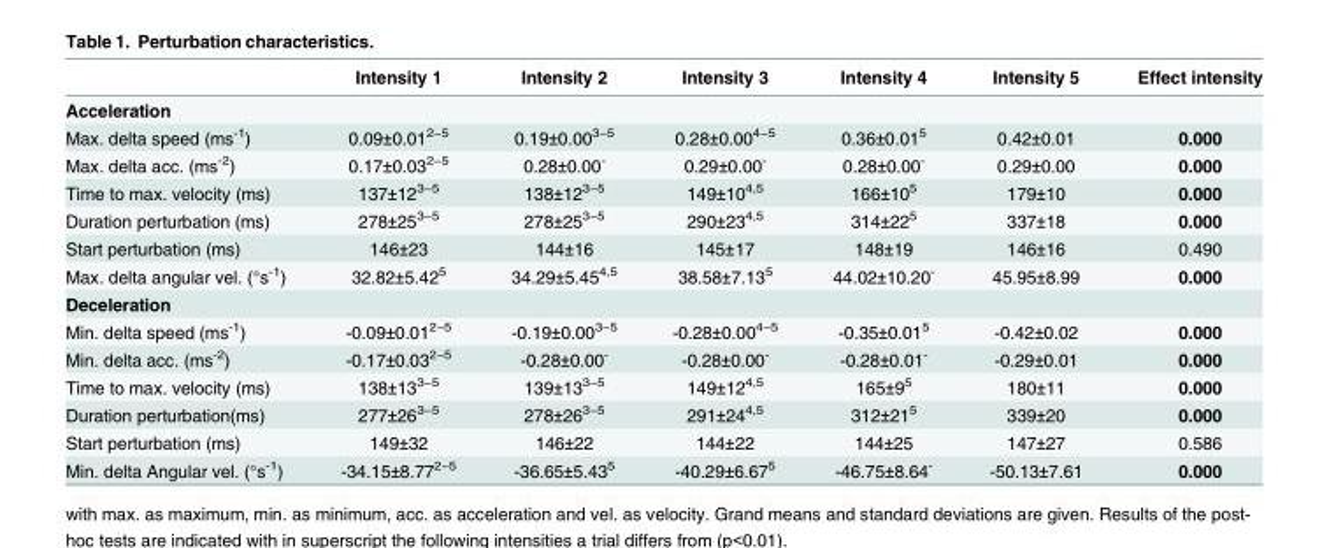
<table><thead><tr><td></td><td>Intensity 1</td><td>Intensity 2</td><td>Intensity 3</td><td>Intensity 4</td><td>Intensity 5</td><td>Effect intensity</td></tr></thead><tbody><tr><td colspan="7">Acceleration</td></tr><tr><td>Max. delta speed (ms<sup>-1</sup>)</td><td>0.09±0.01<sup>2−5</sup></td><td>0.19±0.00<sup>3−5</sup></td><td>0.28±0.00<sup>4−5</sup></td><td>0.36±0.01<sup>5</sup></td><td>0.42±0.01</td><td>0.000</td></tr><tr><td>Max. delta acc. (ms<sup>-2</sup>)</td><td>0.17±0.03<sup>2−5</sup></td><td>0.28±0.00<sup>-</sup></td><td>0.29±0.00<sup>-</sup></td><td>0.28±0.00<sup>-</sup></td><td>0.29±0.00</td><td>0.000</td></tr><tr><td>Time to max. velocity (ms)</td><td>137±12<sup>3−5</sup></td><td>138±12<sup>3−5</sup></td><td>149±10<sup>4,5</sup></td><td>166±10<sup>5</sup></td><td>179±10</td><td>0.000</td></tr><tr><td>Duration perturbation (ms)</td><td>278±25<sup>3−5</sup></td><td>278±25<sup>3−5</sup></td><td>290±23<sup>4,5</sup></td><td>314±22<sup>5</sup></td><td>337±18</td><td>0.000</td></tr><tr><td>Start perturbation (ms)</td><td>146±23</td><td>144±16</td><td>145±17</td><td>148±19</td><td>146±16</td><td>0.490</td></tr><tr><td>Max. delta angular vel. (°s<sup>-1</sup>)</td><td>32.82±5.42<sup>5</sup></td><td>34.29±5.45<sup>4,5</sup></td><td>38.58±7.13<sup>5</sup></td><td>44.02±10.20<sup>-</sup></td><td>45.95±8.99</td><td>0.000</td></tr><tr><td colspan="7">Deceleration</td></tr><tr><td>Min. delta speed (ms<sup>-1</sup>)</td><td>-0.09±0.01<sup>2−5</sup></td><td>-0.19±0.00<sup>3−5</sup></td><td>-0.28±0.00<sup>4−5</sup></td><td>-0.35±0.01<sup>5</sup></td><td>-0.42±0.02</td><td>0.000</td></tr><tr><td>Min. delta acc. (ms<sup>-2</sup>)</td><td>-0.17±0.03<sup>2−5</sup></td><td>-0.28±0.00<sup>-</sup></td><td>-0.28±0.00<sup>-</sup></td><td>-0.28±0.01<sup>-</sup></td><td>-0.29±0.01</td><td>0.000</td></tr><tr><td>Time to max. velocity (ms)</td><td>138±13<sup>3−5</sup></td><td>139±13<sup>3−5</sup></td><td>149±12<sup>4,5</sup></td><td>165±9<sup>5</sup></td><td>180±11</td><td>0.000</td></tr><tr><td>Duration perturbation(ms)</td><td>277±26<sup>3−5</sup></td><td>278±26<sup>3−5</sup></td><td>291±24<sup>4,5</sup></td><td>312±21<sup>5</sup></td><td>339±20</td><td>0.000</td></tr><tr><td>Start perturbation (ms)</td><td>149±32</td><td>146±22</td><td>144±22</td><td>144±25</td><td>147±27</td><td>0.586</td></tr><tr><td>Min. delta Angular vel. (°s<sup>-1</sup>)</td><td>-34.15±8.77<sup>2−5</sup></td><td>-36.65±5.43<sup>5</sup></td><td>-40.29±6.67<sup>5</sup></td><td>-46.75±8.64<sup>-</sup></td><td>-50.13±7.61</td><td>0.000</td></tr></tbody></table>